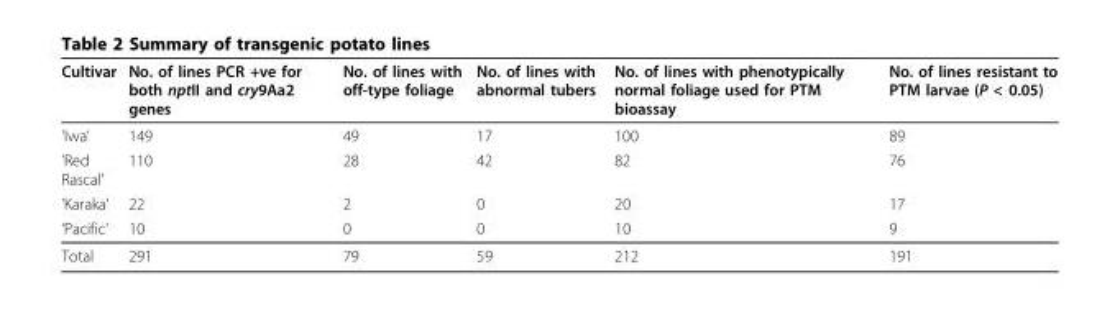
<table><thead><tr><td>Cultivar</td><td>No. of lines PCR +ve for both nptII and cry9Aa2 genes</td><td>No. of lines with off-type foliage</td><td>No. of lines with abnormal tubers</td><td>No. of lines with phenotypically normal foliage used for PTM bioassay</td><td>No. of lines resistant to PTM larvae (P &lt; 0.05)</td></tr></thead><tbody><tr><td>’Iwa’</td><td>149</td><td>49</td><td>17</td><td>100</td><td>89</td></tr><tr><td>’Red Rascal’</td><td>110</td><td>28</td><td>42</td><td>82</td><td>76</td></tr><tr><td>’Karaka’</td><td>22</td><td>2</td><td>0</td><td>20</td><td>17</td></tr><tr><td>’Pacific’</td><td>10</td><td>0</td><td>0</td><td>10</td><td>9</td></tr><tr><td>Total</td><td>291</td><td>79</td><td>59</td><td>212</td><td>191</td></tr></tbody></table>